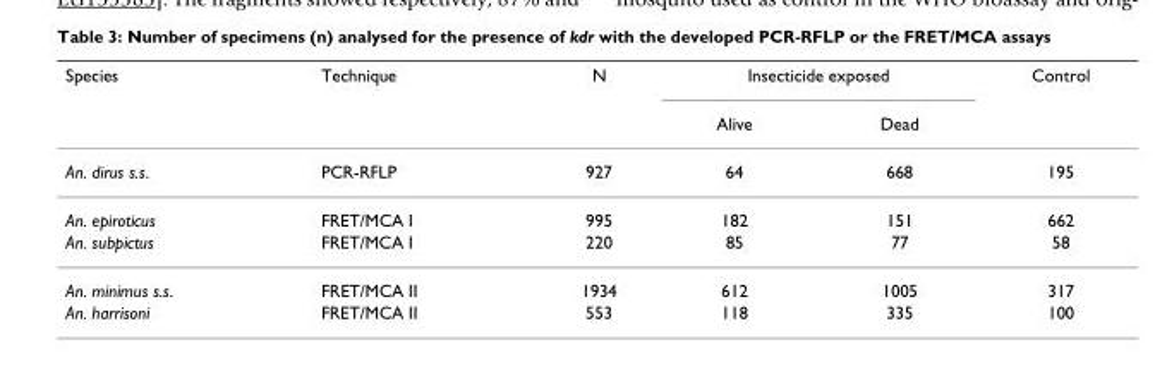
<table><thead><tr><td rowspan="2">Species</td><td rowspan="2">Technique</td><td rowspan="2">N</td><td colspan="2">Insecticide exposed</td><td rowspan="2">Control</td></tr><tr><td>Alive</td><td>Dead</td></tr></thead><tbody><tr><td>An. dirus s.s.</td><td>PCR-RFLP</td><td>927</td><td>64</td><td>668</td><td>195</td></tr><tr><td>An. epiroticus</td><td>FRET/MCA I</td><td>995</td><td>182</td><td>151</td><td>662</td></tr><tr><td>An. subpictus</td><td>FRET/MCA I</td><td>220</td><td>85</td><td>77</td><td>58</td></tr><tr><td>An. minimus s.s.</td><td>FRET/MCA II</td><td>1934</td><td>612</td><td>1005</td><td>317</td></tr><tr><td>An. harrisoni</td><td>FRET/MCA II</td><td>553</td><td>118</td><td>335</td><td>100</td></tr></tbody></table>